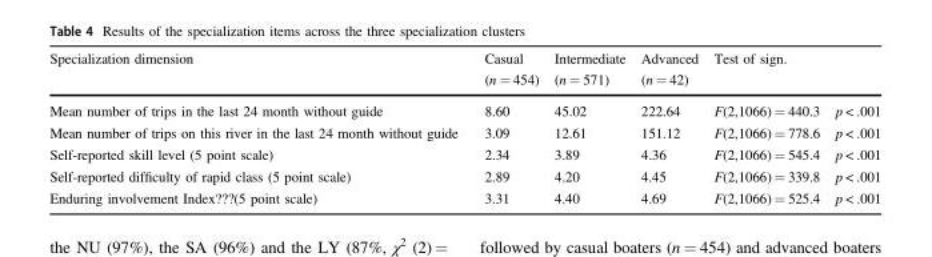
<table><thead><tr><td rowspan="2">Specialization dimension</td><td rowspan="2">Casual (n = 454)</td><td rowspan="2">Intermediate (n = 571)</td><td rowspan="2">Advanced (n = 42)</td><td rowspan="2">Test of sign.</td><td rowspan="2"></td></tr><tr></tr></thead><tbody><tr><td>Mean number of trips in the last 24 month without guide</td><td>8.60</td><td>45.02</td><td>222.64</td><td>F(2,1066) = 440.3</td><td>p &lt; .001</td></tr><tr><td>Mean number of trips on this river in the last 24 month without guide</td><td>3.09</td><td>12.61</td><td>151.12</td><td>F(2,1066) = 778.6</td><td>p &lt; .001</td></tr><tr><td>Self-reported skill level (5 point scale)</td><td>2.34</td><td>3.89</td><td>4.36</td><td>F(2,1066) = 545.4</td><td>p &lt; .001</td></tr><tr><td>Self-reported difficulty of rapid class (5 point scale)</td><td>2.89</td><td>4.20</td><td>4.45</td><td>F(2,1066) = 339.8</td><td>p &lt; .001</td></tr><tr><td>Enduring involvement Index???(5 point scale)</td><td>3.31</td><td>4.40</td><td>4.69</td><td>F(2,1066) = 525.4</td><td>p &lt; .001</td></tr></tbody></table>